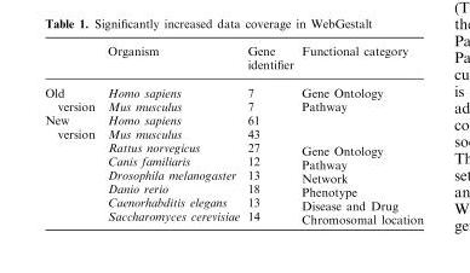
<table><thead><tr><td></td><td>Organism</td><td>Gene identifier</td><td>Functional category</td></tr></thead><tbody><tr><td rowspan="2">Old version</td><td>Homo sapiens</td><td>7</td><td>Gene Ontology</td></tr><tr><td>Mus musculus</td><td>7</td><td>Pathway</td></tr><tr><td rowspan="8">New version</td><td>Homo sapiens</td><td>61</td><td rowspan="8">Gene Ontology Pathway Network Phenotype Disease and Drug Chromosomal location</td></tr><tr><td>Mus musculus</td><td>43</td></tr><tr><td>Rattus norvegicus</td><td>27</td></tr><tr><td>Canis familiaris</td><td>12</td></tr><tr><td>Drosophila melanogaster</td><td>13</td></tr><tr><td>Danio rerio</td><td>18</td></tr><tr><td>Caenorhabditis elegans</td><td>13</td></tr><tr><td>Saccharomyces cerevisiae</td><td>14</td></tr></tbody></table>